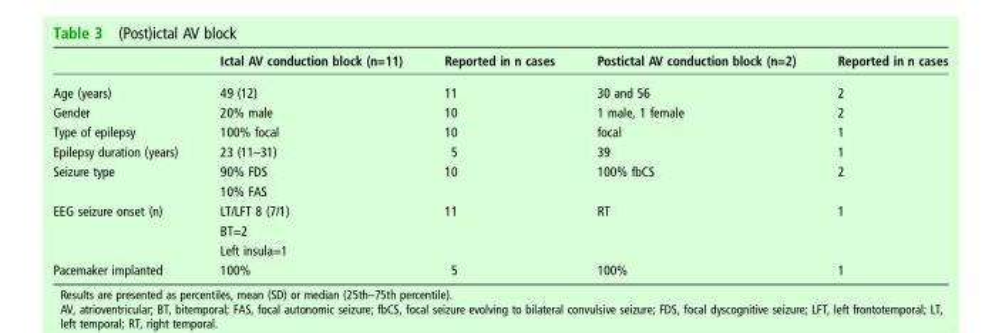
<table><thead><tr><td></td><td>Ictal AV conduction block (n=11)</td><td>Reported in n cases</td><td>Postictal AV conduction block (n=2)</td><td>Reported in n cases</td></tr></thead><tbody><tr><td>Age (years)</td><td>49 (12)</td><td>11</td><td>30 and 56</td><td>2</td></tr><tr><td>Gender</td><td>20% male</td><td>10</td><td>1 male, 1 female</td><td>2</td></tr><tr><td>Type of epilepsy</td><td>100% focal</td><td>10</td><td>focal</td><td>1</td></tr><tr><td>Epilepsy duration (years)</td><td>23 (11–31)</td><td>5</td><td>39</td><td>1</td></tr><tr><td rowspan="2">Seizure type</td><td>90% FDS</td><td>10</td><td>100% fbCS</td><td>2</td></tr><tr><td>10% FAS</td><td></td><td></td><td></td></tr><tr><td rowspan="3">EEG seizure onset (n)</td><td>LT/LFT 8 (7/1)</td><td>11</td><td>RT</td><td>1</td></tr><tr><td>BT=2</td><td></td><td></td><td></td></tr><tr><td>Left insula=1</td><td></td><td></td><td></td></tr><tr><td>Pacemaker implanted</td><td>100%</td><td>5</td><td>100%</td><td>1</td></tr></tbody></table>